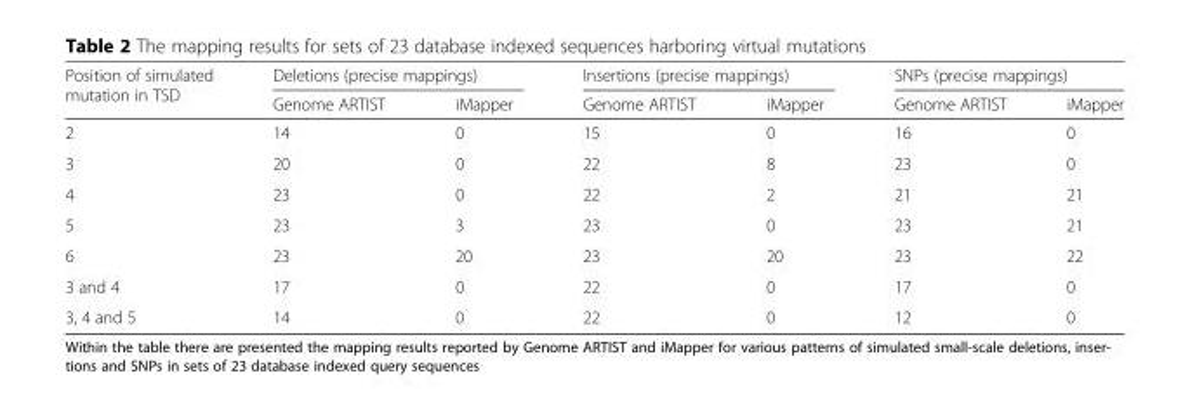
<table><thead><tr><td rowspan="2">Position of simulated mutation in TSD</td><td colspan="2">Deletions (precise mappings)</td><td colspan="2">Insertions (precise mappings)</td><td colspan="2">SNPs (precise mappings)</td></tr><tr><td>Genome ARTIST</td><td>iMapper</td><td>Genome ARTIST</td><td>iMapper</td><td>Genome ARTIST</td><td>iMapper</td></tr></thead><tbody><tr><td>2</td><td>14</td><td>0</td><td>15</td><td>0</td><td>16</td><td>0</td></tr><tr><td>3</td><td>20</td><td>0</td><td>22</td><td>8</td><td>23</td><td>0</td></tr><tr><td>4</td><td>23</td><td>0</td><td>22</td><td>2</td><td>21</td><td>21</td></tr><tr><td>5</td><td>23</td><td>3</td><td>23</td><td>0</td><td>23</td><td>21</td></tr><tr><td>6</td><td>23</td><td>20</td><td>23</td><td>20</td><td>23</td><td>22</td></tr><tr><td>3 and 4</td><td>17</td><td>0</td><td>22</td><td>0</td><td>17</td><td>0</td></tr><tr><td>3, 4 and 5</td><td>14</td><td>0</td><td>22</td><td>0</td><td>12</td><td>0</td></tr></tbody></table>